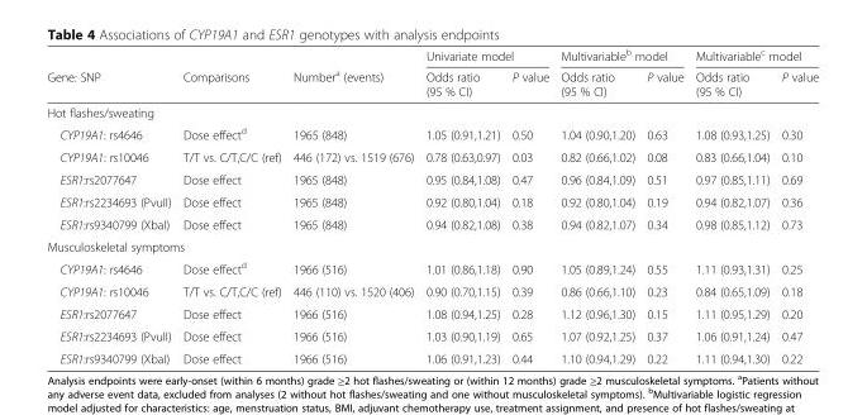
<table><thead><tr><td rowspan="2">Gene: SNP</td><td rowspan="2">Comparisons</td><td rowspan="2">Number<sup>a</sup> (events)</td><td colspan="2">Univariate model</td><td colspan="2">Multivariable<sup>b</sup> model</td><td colspan="2">Multivariable<sup>c</sup> model</td></tr><tr><td>Odds ratio (95 % CI)</td><td>P value</td><td>Odds ratio (95 % CI)</td><td>P value</td><td>Odds ratio (95 % CI)</td><td>P value</td></tr></thead><tbody><tr><td colspan="9">Hot flashes/sweating</td></tr><tr><td>CYP19A1: rs4646</td><td>Dose effect<sup>d</sup></td><td>1965 (848)</td><td>1.05 (0.91,1.21)</td><td>0.50</td><td>1.04 (0.90,1.20)</td><td>0.63</td><td>1.08 (0.93,1.25)</td><td>0.30</td></tr><tr><td>CYP19A1: rs10046</td><td>T/T vs. C/T,C/C (ref)</td><td>446 (172) vs. 1519 (676)</td><td>0.78 (0.63,0.97)</td><td>0.03</td><td>0.82 (0.66,1.02)</td><td>0.08</td><td>0.83 (0.66,1.04)</td><td>0.10</td></tr><tr><td>ESR1:rs2077647</td><td>Dose effect</td><td>1965 (848)</td><td>0.95 (0.84,1.08)</td><td>0.47</td><td>0.96 (0.84,1.09)</td><td>0.51</td><td>0.97 (0.85,1.11)</td><td>0.69</td></tr><tr><td>ESR1:rs2234693 (PvuII)</td><td>Dose effect</td><td>1965 (848)</td><td>0.92 (0.80,1.04)</td><td>0.18</td><td>0.92 (0.80,1.04)</td><td>0.19</td><td>0.94 (0.82,1.07)</td><td>0.36</td></tr><tr><td>ESR1:rs9340799 (XbaI)</td><td>Dose effect</td><td>1965 (848)</td><td>0.94 (0.82,1.08)</td><td>0.38</td><td>0.94 (0.82,1.07)</td><td>0.34</td><td>0.98 (0.85,1.12)</td><td>0.73</td></tr><tr><td colspan="9">Musculoskeletal symptoms</td></tr><tr><td>CYP19A1: rs4646</td><td>Dose effect<sup>d</sup></td><td>1966 (516)</td><td>1.01 (0.86,1.18)</td><td>0.90</td><td>1.05 (0.89,1.24)</td><td>0.55</td><td>1.11 (0.93,1.31)</td><td>0.25</td></tr><tr><td>CYP19A1: rs10046</td><td>T/T vs. C/T,C/C (ref)</td><td>446 (110) vs. 1520 (406)</td><td>0.90 (0.70,1.15)</td><td>0.39</td><td>0.86 (0.66,1.10)</td><td>0.23</td><td>0.84 (0.65,1.09)</td><td>0.18</td></tr><tr><td>ESR1:rs2077647</td><td>Dose effect</td><td>1966 (516)</td><td>1.08 (0.94,1.25)</td><td>0.28</td><td>1.12 (0.96,1.30)</td><td>0.15</td><td>1.11 (0.95,1.29)</td><td>0.20</td></tr><tr><td>ESR1:rs2234693 (PvuII)</td><td>Dose effect</td><td>1966 (516)</td><td>1.03 (0.90,1.19)</td><td>0.65</td><td>1.07 (0.92,1.25)</td><td>0.37</td><td>1.06 (0.91,1.24)</td><td>0.47</td></tr><tr><td>ESR1:rs9340799 (XbaI)</td><td>Dose effect</td><td>1966 (516)</td><td>1.06 (0.91,1.23)</td><td>0.44</td><td>1.10 (0.94,1.29)</td><td>0.22</td><td>1.11 (0.94,1.30)</td><td>0.22</td></tr></tbody></table>